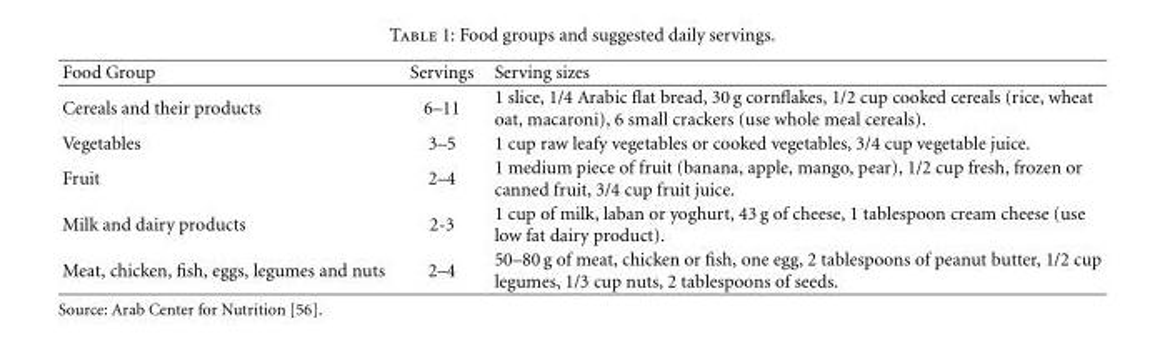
<table><thead><tr><td>Food Group</td><td>Servings</td><td>Serving sizes</td></tr></thead><tbody><tr><td>Cereals and their products</td><td>6–11</td><td>1 slice, 1/4 Arabic flat bread, 30 g cornflakes, 1/2 cup cooked cereals (rice, wheat oat, macaroni), 6 small crackers (use whole meal cereals).</td></tr><tr><td>Vegetables</td><td>3–5</td><td>1 cup raw leafy vegetables or cooked vegetables, 3/4 cup vegetable juice.</td></tr><tr><td>Fruit</td><td>2–4</td><td>1 medium piece of fruit (banana, apple, mango, pear), 1/2 cup fresh, frozen or canned fruit, 3/4 cup fruit juice.</td></tr><tr><td>Milk and dairy products</td><td>2-3</td><td>1 cup of milk, laban or yoghurt, 43 g of cheese, 1 tablespoon cream cheese (use low fat dairy product).</td></tr><tr><td>Meat, chicken, fish, eggs, legumes and nuts</td><td>2–4</td><td>50–80 g of meat, chicken or fish, one egg, 2 tablespoons of peanut butter, 1/2 cup legumes, 1/3 cup nuts, 2 tablespoons of seeds.</td></tr></tbody></table>